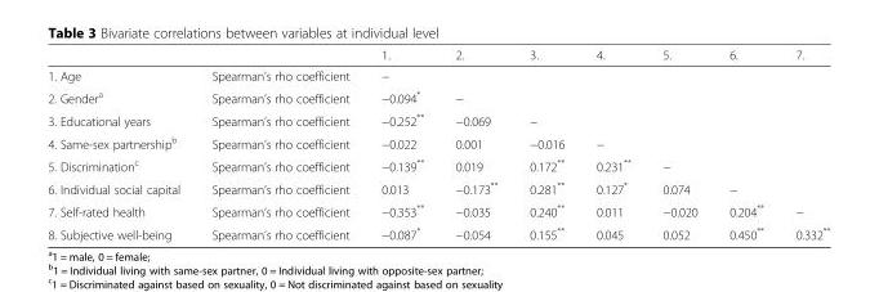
<table><thead><tr><td></td><td></td><td>1.</td><td>2.</td><td>3.</td><td>4.</td><td>5.</td><td>6.</td><td>7.</td></tr></thead><tbody><tr><td>1. Age</td><td>Spearman’s rho coefficient</td><td>−</td><td></td><td></td><td></td><td></td><td></td><td></td></tr><tr><td>2. Gender<sup>a</sup></td><td>Spearman’s rho coefficient</td><td>−0.094*</td><td>−</td><td></td><td></td><td></td><td></td><td></td></tr><tr><td>3. Educational years</td><td>Spearman’s rho coefficient</td><td>−0.252**</td><td>−0.069</td><td>−</td><td></td><td></td><td></td><td></td></tr><tr><td>4. Same-sex partnership<sup>b</sup></td><td>Spearman’s rho coefficient</td><td>−0.022</td><td>0.001</td><td>−0.016</td><td>−</td><td></td><td></td><td></td></tr><tr><td>5. Discrimination<sup>c</sup></td><td>Spearman’s rho coefficient</td><td>−0.139**</td><td>0.019</td><td>0.172**</td><td>0.231**</td><td>−</td><td></td><td></td></tr><tr><td>6. Individual social capital</td><td>Spearman’s rho coefficient</td><td>0.013</td><td>−0.173**</td><td>0.281**</td><td>0.127*</td><td>0.074</td><td>−</td><td></td></tr><tr><td>7. Self-rated health</td><td>Spearman’s rho coefficient</td><td>−0.353**</td><td>−0.035</td><td>0.240**</td><td>0.011</td><td>−0.020</td><td>0.204**</td><td>−</td></tr><tr><td>8. Subjective well-being</td><td>Spearman’s rho coefficient</td><td>−0.087*</td><td>−0.054</td><td>0.155**</td><td>0.045</td><td>0.052</td><td>0.450**</td><td>0.332**</td></tr></tbody></table>